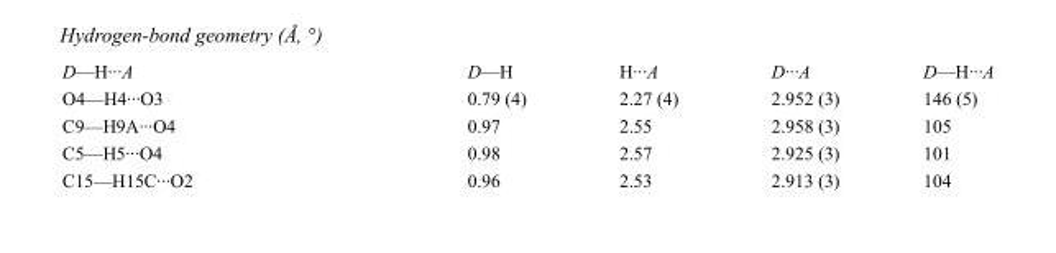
<table><tbody><tr><td>D—H···A</td><td>D—H</td><td>H···A</td><td>D···A</td><td>D—H···A</td></tr><tr><td>O4—H4···O3</td><td>0.79 (4)</td><td>2.27 (4)</td><td>2.952 (3)</td><td>146 (5)</td></tr><tr><td>C9—H9A···O4</td><td>0.97</td><td>2.55</td><td>2.958 (3)</td><td>105</td></tr><tr><td>C5—H5···O4</td><td>0.98</td><td>2.57</td><td>2.925 (3)</td><td>101</td></tr><tr><td>C15—H15C···O2</td><td>0.96</td><td>2.53</td><td>2.913 (3)</td><td>104</td></tr></tbody></table>